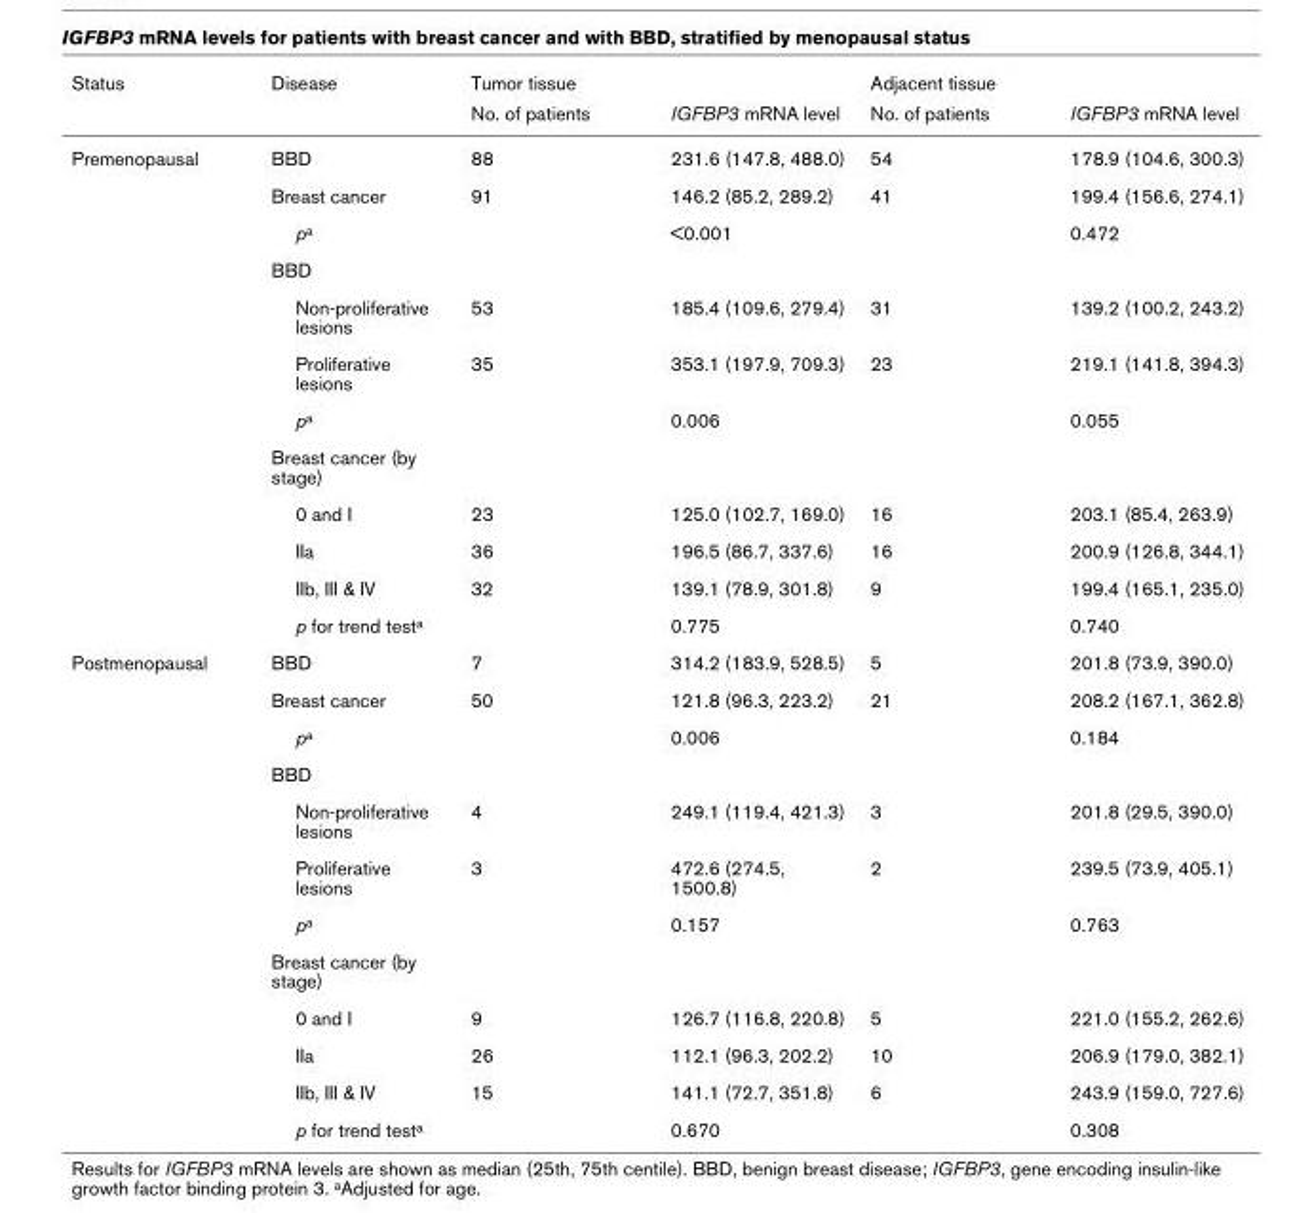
<table><thead><tr><td rowspan="2">Status</td><td rowspan="2">Disease</td><td colspan="2">Tumor tissue</td><td colspan="2">Adjacent tissue</td></tr><tr><td>No. of patients</td><td>IGFBP3 mRNA level</td><td>No. of patients</td><td>IGFBP3 mRNA level</td></tr></thead><tbody><tr><td rowspan="12">Premenopausal</td><td>BBD</td><td>88</td><td>231.6 (147.8, 488.0)</td><td>54</td><td>178.9 (104.6, 300.3)</td></tr><tr><td>Breast cancer</td><td>91</td><td>146.2 (85.2, 289.2)</td><td>41</td><td>199.4 (156.6, 274.1)</td></tr><tr><td>pa</td><td></td><td>&lt;0.001</td><td></td><td>0.472</td></tr><tr><td>BBD</td><td></td><td></td><td></td><td></td></tr><tr><td>Non-proliferative lesions</td><td>53</td><td>185.4 (109.6, 279.4)</td><td>31</td><td>139.2 (100.2, 243.2)</td></tr><tr><td>Proliferative lesions</td><td>35</td><td>353.1 (197.9, 709.3)</td><td>23</td><td>219.1 (141.8, 394.3)</td></tr><tr><td>pa</td><td></td><td>0.006</td><td></td><td>0.055</td></tr><tr><td>Breast cancer (by stage)</td><td></td><td></td><td></td><td></td></tr><tr><td>0 and I</td><td>23</td><td>125.0 (102.7, 169.0)</td><td>16</td><td>203.1 (85.4, 263.9)</td></tr><tr><td>IIa</td><td>36</td><td>196.5 (86.7, 337.6)</td><td>16</td><td>200.9 (126.8, 344.1)</td></tr><tr><td>IIb, III &amp; IV</td><td>32</td><td>139.1 (78.9, 301.8)</td><td>9</td><td>199.4 (165.1, 235.0)</td></tr><tr><td>p for trend testa</td><td></td><td>0.775</td><td></td><td>0.740</td></tr><tr><td rowspan="12">Postmenopausal</td><td>BBD</td><td>7</td><td>314.2 (183.9, 528.5)</td><td>5</td><td>201.8 (73.9, 390.0)</td></tr><tr><td>Breast cancer</td><td>50</td><td>121.8 (96.3, 223.2)</td><td>21</td><td>208.2 (167.1, 362.8)</td></tr><tr><td>pa</td><td></td><td>0.006</td><td></td><td>0.184</td></tr><tr><td>BBD</td><td></td><td></td><td></td><td></td></tr><tr><td>Non-proliferative lesions</td><td>4</td><td>249.1 (119.4, 421.3)</td><td>3</td><td>201.8 (29.5, 390.0)</td></tr><tr><td>Proliferative lesions</td><td>3</td><td>472.6 (274.5, 1500.8)</td><td>2</td><td>239.5 (73.9, 405.1)</td></tr><tr><td>pa</td><td></td><td>0.157</td><td></td><td>0.763</td></tr><tr><td>Breast cancer (by stage)</td><td></td><td></td><td></td><td></td></tr><tr><td>0 and I</td><td>9</td><td>126.7 (116.8, 220.8)</td><td>5</td><td>221.0 (155.2, 262.6)</td></tr><tr><td>IIa</td><td>26</td><td>112.1 (96.3, 202.2)</td><td>10</td><td>206.9 (179.0, 382.1)</td></tr><tr><td>IIb, III &amp; IV</td><td>15</td><td>141.1 (72.7, 351.8)</td><td>6</td><td>243.9 (159.0, 727.6)</td></tr><tr><td>p for trend testa</td><td></td><td>0.670</td><td></td><td>0.308</td></tr></tbody></table>